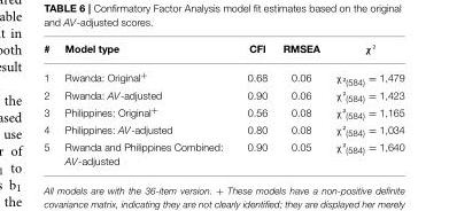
<table><thead><tr><td>#</td><td>Model type</td><td>CFI</td><td>RMSEA</td><td>χ²</td></tr></thead><tbody><tr><td>1</td><td>Rwanda: Original<sup>+</sup></td><td>0.68</td><td>0.06</td><td>χ<sub>²</sub>(584) = 1,479</td></tr><tr><td>2</td><td>Rwanda: AV-adjusted</td><td>0.90</td><td>0.06</td><td>χ²<sub>(584)</sub> = 1,423</td></tr><tr><td>3</td><td>Philippines: Original<sup>+</sup></td><td>0.56</td><td>0.08</td><td>χ²<sub>(584)</sub> = 1,165</td></tr><tr><td>4</td><td>Philippines: AV-adjusted</td><td>0.80</td><td>0.08</td><td>χ²<sub>(584)</sub> = 1,034</td></tr><tr><td>5</td><td>Rwanda and Philippines Combined: AV-adjusted</td><td>0.90</td><td>0.05</td><td>χ²<sub>(584)</sub> = 1,640</td></tr></tbody></table>